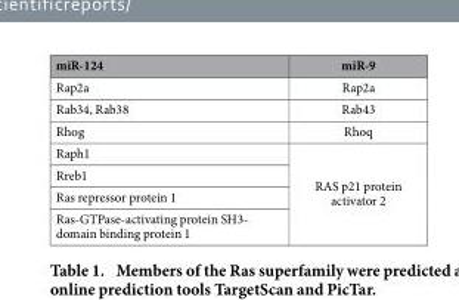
<table><thead><tr><td>miR-124</td><td>miR-9</td></tr></thead><tbody><tr><td>Rap2a</td><td>Rap2a</td></tr><tr><td>Rab34, Rab38</td><td>Rab43</td></tr><tr><td>Rhog</td><td>Rhoq</td></tr><tr><td>Raph1</td><td rowspan="4">RAS p21 protein activator 2</td></tr><tr><td>Rreb1</td></tr><tr><td>Ras repressor protein 1</td></tr><tr><td>Ras-GTPase-activating protein SH3- domain binding protein 1</td></tr></tbody></table>